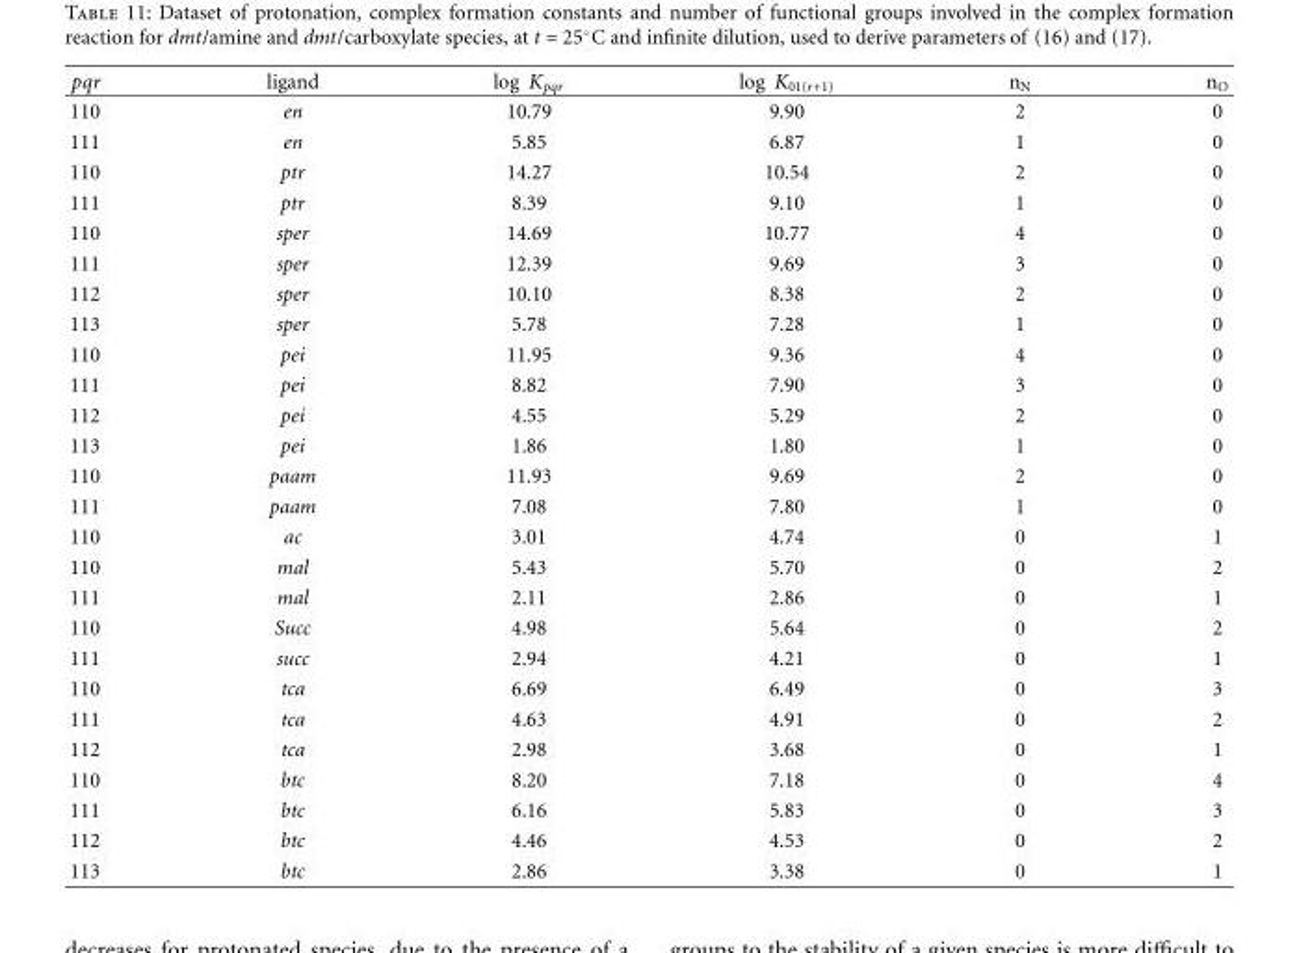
<table><thead><tr><td>pqr</td><td>ligand</td><td>log K<sub>pqr</sub></td><td>log K<sub>01(r+1)</sub></td><td>n<sub>N</sub></td><td>n<sub>O</sub></td></tr></thead><tbody><tr><td>110</td><td>en</td><td>10.79</td><td>9.90</td><td>2</td><td>0</td></tr><tr><td>111</td><td>en</td><td>5.85</td><td>6.87</td><td>1</td><td>0</td></tr><tr><td>110</td><td>ptr</td><td>14.27</td><td>10.54</td><td>2</td><td>0</td></tr><tr><td>111</td><td>ptr</td><td>8.39</td><td>9.10</td><td>1</td><td>0</td></tr><tr><td>110</td><td>sper</td><td>14.69</td><td>10.77</td><td>4</td><td>0</td></tr><tr><td>111</td><td>sper</td><td>12.39</td><td>9.69</td><td>3</td><td>0</td></tr><tr><td>112</td><td>sper</td><td>10.10</td><td>8.38</td><td>2</td><td>0</td></tr><tr><td>113</td><td>sper</td><td>5.78</td><td>7.28</td><td>1</td><td>0</td></tr><tr><td>110</td><td>pei</td><td>11.95</td><td>9.36</td><td>4</td><td>0</td></tr><tr><td>111</td><td>pei</td><td>8.82</td><td>7.90</td><td>3</td><td>0</td></tr><tr><td>112</td><td>pei</td><td>4.55</td><td>5.29</td><td>2</td><td>0</td></tr><tr><td>113</td><td>pei</td><td>1.86</td><td>1.80</td><td>1</td><td>0</td></tr><tr><td>110</td><td>paam</td><td>11.93</td><td>9.69</td><td>2</td><td>0</td></tr><tr><td>111</td><td>paam</td><td>7.08</td><td>7.80</td><td>1</td><td>0</td></tr><tr><td>110</td><td>ac</td><td>3.01</td><td>4.74</td><td>0</td><td>1</td></tr><tr><td>110</td><td>mal</td><td>5.43</td><td>5.70</td><td>0</td><td>2</td></tr><tr><td>111</td><td>mal</td><td>2.11</td><td>2.86</td><td>0</td><td>1</td></tr><tr><td>110</td><td>Succ</td><td>4.98</td><td>5.64</td><td>0</td><td>2</td></tr><tr><td>111</td><td>succ</td><td>2.94</td><td>4.21</td><td>0</td><td>1</td></tr><tr><td>110</td><td>tca</td><td>6.69</td><td>6.49</td><td>0</td><td>3</td></tr><tr><td>111</td><td>tca</td><td>4.63</td><td>4.91</td><td>0</td><td>2</td></tr><tr><td>112</td><td>tca</td><td>2.98</td><td>3.68</td><td>0</td><td>1</td></tr><tr><td>110</td><td>btc</td><td>8.20</td><td>7.18</td><td>0</td><td>4</td></tr><tr><td>111</td><td>btc</td><td>6.16</td><td>5.83</td><td>0</td><td>3</td></tr><tr><td>112</td><td>btc</td><td>4.46</td><td>4.53</td><td>0</td><td>2</td></tr><tr><td>113</td><td>btc</td><td>2.86</td><td>3.38</td><td>0</td><td>1</td></tr></tbody></table>